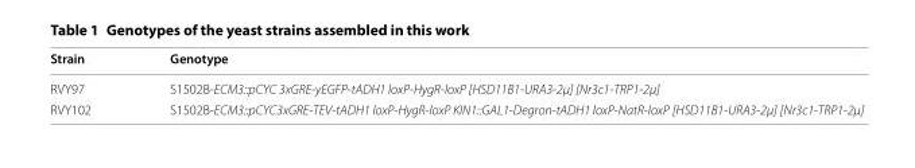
<table><thead><tr><td>Strain</td><td>Genotype</td></tr></thead><tbody><tr><td>RVY97</td><td>S1502B-ECM3::pCYC 3xGRE-yEGFP-tADH1 loxP-HygR-loxP [HSD11B1-URA3-2μ] [Nr3c1-TRP1-2μ]</td></tr><tr><td>RVY102</td><td>S1502B-ECM3::pCYC3xGRE-TEV-tADH1 loxP-HygR-loxP KIN1::GAL1-Degron-tADH1 loxP-NatR-loxP [HSD11B1-URA3-2μ] [Nr3c1-TRP1-2μ]</td></tr></tbody></table>